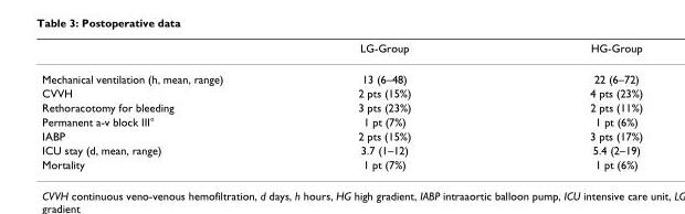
<table><thead><tr><td></td><td>LG-Group</td><td>HG-Group</td></tr></thead><tbody><tr><td>Mechanical ventilation (h, mean, range)</td><td>13 (6–48)</td><td>22 (6–72)</td></tr><tr><td>CVVH</td><td>2 pts (15%)</td><td>4 pts (23%)</td></tr><tr><td>Rethoracotomy for bleeding</td><td>3 pts (23%)</td><td>2 pts (11%)</td></tr><tr><td>Permanent a-v block III°</td><td>1 pt (7%)</td><td>1 pt (6%)</td></tr><tr><td>IABP</td><td>2 pts (15%)</td><td>3 pts (17%)</td></tr><tr><td>ICU stay (d, mean, range)</td><td>3.7 (1–12)</td><td>5.4 (2–19)</td></tr><tr><td>Mortality</td><td>1 pt (7%)</td><td>1 pt (6%)</td></tr></tbody></table>